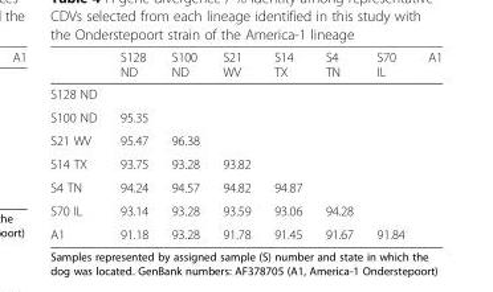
<table><thead><tr><td></td><td>S128 ND</td><td>S100 ND</td><td>S21 WV</td><td>S14 TX</td><td>S4 TN</td><td>S70 IL</td><td>A1</td></tr></thead><tbody><tr><td colspan="8">S128 ND</td></tr><tr><td>S100 ND</td><td>95.35</td><td></td><td></td><td></td><td></td><td></td><td></td></tr><tr><td>S21 WV</td><td>95.47</td><td>96.38</td><td></td><td></td><td></td><td></td><td></td></tr><tr><td>S14 TX</td><td>93.75</td><td>93.28</td><td>93.82</td><td></td><td></td><td></td><td></td></tr><tr><td>S4 TN</td><td>94.24</td><td>94.57</td><td>94.82</td><td>94.87</td><td></td><td></td><td></td></tr><tr><td>S70 IL</td><td>93.14</td><td>93.28</td><td>93.59</td><td>93.06</td><td>94.28</td><td></td><td></td></tr><tr><td>A1</td><td>91.18</td><td>93.28</td><td>91.78</td><td>91.45</td><td>91.67</td><td>91.84</td><td></td></tr></tbody></table>